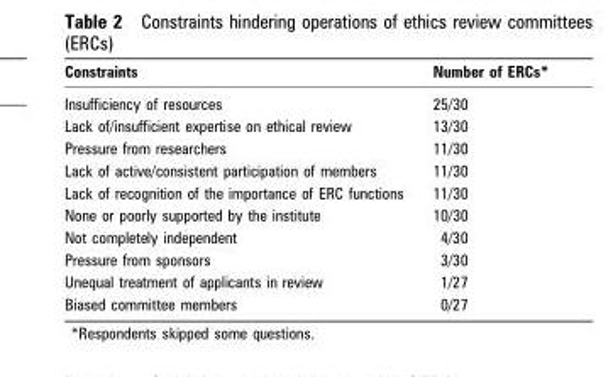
<table><thead><tr><td>Constraints</td><td>Number of ERCs*</td></tr></thead><tbody><tr><td>Insufficiency of resources</td><td>25/30</td></tr><tr><td>Lack of/insufficient expertise on ethical review</td><td>13/30</td></tr><tr><td>Pressure from researchers</td><td>11/30</td></tr><tr><td>Lack of active/consistent participation of members</td><td>11/30</td></tr><tr><td>Lack of recognition of the importance of ERC functions</td><td>11/30</td></tr><tr><td>None or poorly supported by the institute</td><td>10/30</td></tr><tr><td>Not completely independent</td><td>4/30</td></tr><tr><td>Pressure from sponsors</td><td>3/30</td></tr><tr><td>Unequal treatment of applicants in review</td><td>1/27</td></tr><tr><td>Biased committee members</td><td>0/27</td></tr></tbody></table>